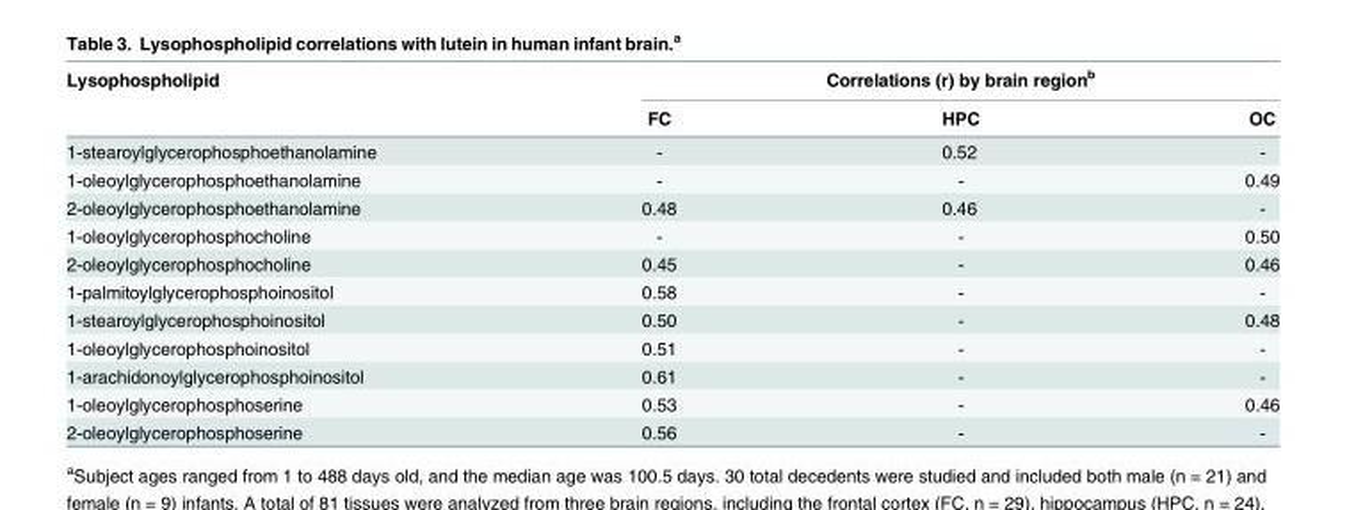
<table><thead><tr><td rowspan="2">Lysophospholipid</td><td colspan="3">Correlations (r) by brain region<sup>b</sup></td></tr><tr><td>FC</td><td>HPC</td><td>OC</td></tr></thead><tbody><tr><td>1-stearoylglycerophosphoethanolamine</td><td>-</td><td>0.52</td><td>-</td></tr><tr><td>1-oleoylglycerophosphoethanolamine</td><td>-</td><td>-</td><td>0.49</td></tr><tr><td>2-oleoylglycerophosphoethanolamine</td><td>0.48</td><td>0.46</td><td>-</td></tr><tr><td>1-oleoylglycerophosphocholine</td><td>-</td><td>-</td><td>0.50</td></tr><tr><td>2-oleoylglycerophosphocholine</td><td>0.45</td><td>-</td><td>0.46</td></tr><tr><td>1-palmitoylglycerophosphoinositol</td><td>0.58</td><td>-</td><td>-</td></tr><tr><td>1-stearoylglycerophosphoinositol</td><td>0.50</td><td>-</td><td>0.48</td></tr><tr><td>1-oleoylglycerophosphoinositol</td><td>0.51</td><td>-</td><td>-</td></tr><tr><td>1-arachidonoylglycerophosphoinositol</td><td>0.61</td><td>-</td><td>-</td></tr><tr><td>1-oleoylglycerophosphoserine</td><td>0.53</td><td>-</td><td>0.46</td></tr><tr><td>2-oleoylglycerophosphoserine</td><td>0.56</td><td>-</td><td>-</td></tr></tbody></table>